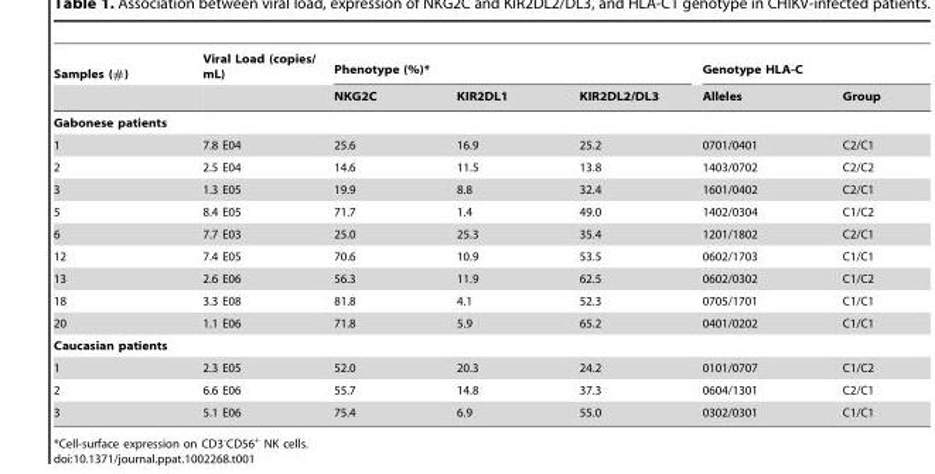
<table><thead><tr><td rowspan="2">Samples (#)</td><td rowspan="2">Viral Load (copies/ mL)</td><td colspan="3">Phenotype (%)*</td><td colspan="2">Genotype HLA-C</td></tr><tr><td>NKG2C</td><td>KIR2DL1</td><td>KIR2DL2/DL3</td><td>Alleles</td><td>Group</td></tr></thead><tbody><tr><td colspan="7">Gabonese patients</td></tr><tr><td>1</td><td>7.8 E04</td><td>25.6</td><td>16.9</td><td>25.2</td><td>0701/0401</td><td>C2/C1</td></tr><tr><td>2</td><td>2.5 E04</td><td>14.6</td><td>11.5</td><td>13.8</td><td>1403/0702</td><td>C2/C2</td></tr><tr><td>3</td><td>1.3 E05</td><td>19.9</td><td>8.8</td><td>32.4</td><td>1601/0402</td><td>C2/C1</td></tr><tr><td>5</td><td>8.4 E05</td><td>71.7</td><td>1.4</td><td>49.0</td><td>1402/0304</td><td>C1/C2</td></tr><tr><td>6</td><td>7.7 E03</td><td>25.0</td><td>25.3</td><td>35.4</td><td>1201/1802</td><td>C2/C1</td></tr><tr><td>12</td><td>7.4 E05</td><td>70.6</td><td>10.9</td><td>53.5</td><td>0602/1703</td><td>C1/C1</td></tr><tr><td>13</td><td>2.6 E06</td><td>56.3</td><td>11.9</td><td>62.5</td><td>0602/0302</td><td>C1/C2</td></tr><tr><td>18</td><td>3.3 E08</td><td>81.8</td><td>4.1</td><td>52.3</td><td>0705/1701</td><td>C1/C1</td></tr><tr><td>20</td><td>1.1 E06</td><td>71.8</td><td>5.9</td><td>65.2</td><td>0401/0202</td><td>C1/C1</td></tr><tr><td colspan="7">Caucasian patients</td></tr><tr><td>1</td><td>2.3 E05</td><td>52.0</td><td>20.3</td><td>24.2</td><td>0101/0707</td><td>C1/C2</td></tr><tr><td>2</td><td>6.6 E06</td><td>55.7</td><td>14.8</td><td>37.3</td><td>0604/1301</td><td>C2/C1</td></tr><tr><td>3</td><td>5.1 E06</td><td>75.4</td><td>6.9</td><td>55.0</td><td>0302/0301</td><td>C1/C1</td></tr></tbody></table>